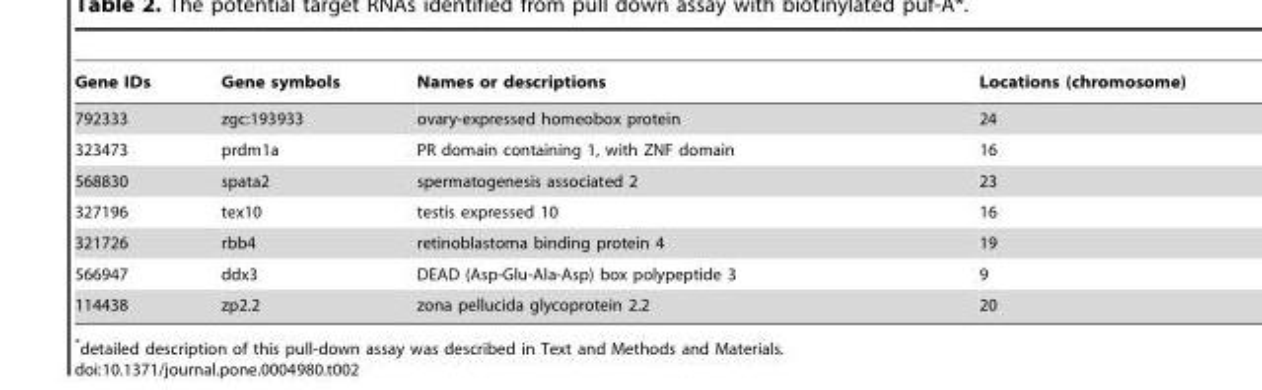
<table><thead><tr><td>Gene IDs</td><td>Gene symbols</td><td>Names or descriptions</td><td>Locations (chromosome)</td></tr></thead><tbody><tr><td>792333</td><td>zgc:193933</td><td>ovary-expressed homeobox protein</td><td>24</td></tr><tr><td>323473</td><td>prdm1a</td><td>PR domain containing 1, with ZNF domain</td><td>16</td></tr><tr><td>568830</td><td>spata2</td><td>spermatogenesis associated 2</td><td>23</td></tr><tr><td>327196</td><td>tex10</td><td>testis expressed 10</td><td>16</td></tr><tr><td>321726</td><td>rbb4</td><td>retinoblastoma binding protein 4</td><td>19</td></tr><tr><td>566947</td><td>ddx3</td><td>DEAD (Asp-Glu-Ala-Asp) box polypeptide 3</td><td>9</td></tr><tr><td>114438</td><td>zp2.2</td><td>zona pellucida glycoprotein 2.2</td><td>20</td></tr></tbody></table>